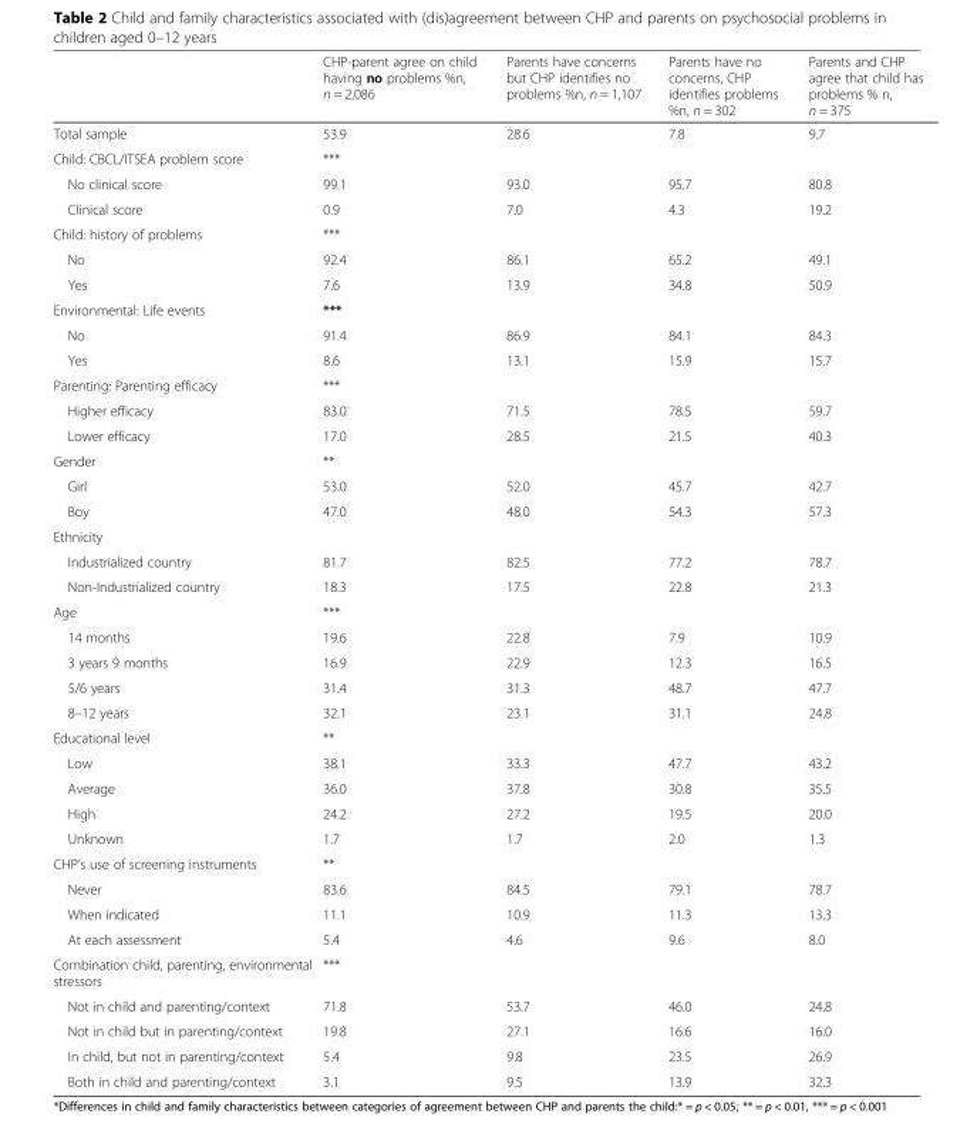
<table><thead><tr><td></td><td>CHP-parent agree on child having no problems %n, n = 2,086</td><td>Parents have concerns but CHP identifies no problems %n, n = 1,107</td><td>Parents have no concerns, CHP identifies problems %n, n = 302</td><td>Parents and CHP agree that child has problems % n, n = 375</td></tr></thead><tbody><tr><td>Total sample</td><td>53.9</td><td>28.6</td><td>7.8</td><td>9.7</td></tr><tr><td>Child: CBCL/ITSEA problem score</td><td>***</td><td></td><td></td><td></td></tr><tr><td>No clinical score</td><td>99.1</td><td>93.0</td><td>95.7</td><td>80.8</td></tr><tr><td>Clinical score</td><td>0.9</td><td>7.0</td><td>4.3</td><td>19.2</td></tr><tr><td>Child: history of problems</td><td>***</td><td></td><td></td><td></td></tr><tr><td>No</td><td>92.4</td><td>86.1</td><td>65.2</td><td>49.1</td></tr><tr><td>Yes</td><td>7.6</td><td>13.9</td><td>34.8</td><td>50.9</td></tr><tr><td>Environmental: Life events</td><td>***</td><td></td><td></td><td></td></tr><tr><td>No</td><td>91.4</td><td>86.9</td><td>84.1</td><td>84.3</td></tr><tr><td>Yes</td><td>8.6</td><td>13.1</td><td>15.9</td><td>15.7</td></tr><tr><td>Parenting: Parenting efficacy</td><td>***</td><td></td><td></td><td></td></tr><tr><td>Higher efficacy</td><td>83.0</td><td>71.5</td><td>78.5</td><td>59.7</td></tr><tr><td>Lower efficacy</td><td>17.0</td><td>28.5</td><td>21.5</td><td>40.3</td></tr><tr><td>Gender</td><td>**</td><td></td><td></td><td></td></tr><tr><td>Girl</td><td>53.0</td><td>52.0</td><td>45.7</td><td>42.7</td></tr><tr><td>Boy</td><td>47.0</td><td>48.0</td><td>54.3</td><td>57.3</td></tr><tr><td colspan="5">Ethnicity</td></tr><tr><td>Industrialized country</td><td>81.7</td><td>82.5</td><td>77.2</td><td>78.7</td></tr><tr><td>Non-Industrialized country</td><td>18.3</td><td>17.5</td><td>22.8</td><td>21.3</td></tr><tr><td>Age</td><td>***</td><td></td><td></td><td></td></tr><tr><td>14 months</td><td>19.6</td><td>22.8</td><td>7.9</td><td>10.9</td></tr><tr><td>3 years 9 months</td><td>16.9</td><td>22.9</td><td>12.3</td><td>16.5</td></tr><tr><td>5/6 years</td><td>31.4</td><td>31.3</td><td>48.7</td><td>47.7</td></tr><tr><td>8–12 years</td><td>32.1</td><td>23.1</td><td>31.1</td><td>24.8</td></tr><tr><td>Educational level</td><td>**</td><td></td><td></td><td></td></tr><tr><td>Low</td><td>38.1</td><td>33.3</td><td>47.7</td><td>43.2</td></tr><tr><td>Average</td><td>36.0</td><td>37.8</td><td>30.8</td><td>35.5</td></tr><tr><td>High</td><td>24.2</td><td>27.2</td><td>19.5</td><td>20.0</td></tr><tr><td>Unknown</td><td>1.7</td><td>1.7</td><td>2.0</td><td>1.3</td></tr><tr><td>CHP’s use of screening instruments</td><td>**</td><td></td><td></td><td></td></tr><tr><td>Never</td><td>83.6</td><td>84.5</td><td>79.1</td><td>78.7</td></tr><tr><td>When indicated</td><td>11.1</td><td>10.9</td><td>11.3</td><td>13.3</td></tr><tr><td>At each assessment</td><td>5.4</td><td>4.6</td><td>9.6</td><td>8.0</td></tr><tr><td>Combination child, parenting, environmental stressors</td><td>***</td><td></td><td></td><td></td></tr><tr><td>Not in child and parenting/context</td><td>71.8</td><td>53.7</td><td>46.0</td><td>24.8</td></tr><tr><td>Not in child but in parenting/context</td><td>19.8</td><td>27.1</td><td>16.6</td><td>16.0</td></tr><tr><td>In child, but not in parenting/context</td><td>5.4</td><td>9.8</td><td>23.5</td><td>26.9</td></tr><tr><td>Both in child and parenting/context</td><td>3.1</td><td>9.5</td><td>13.9</td><td>32.3</td></tr></tbody></table>